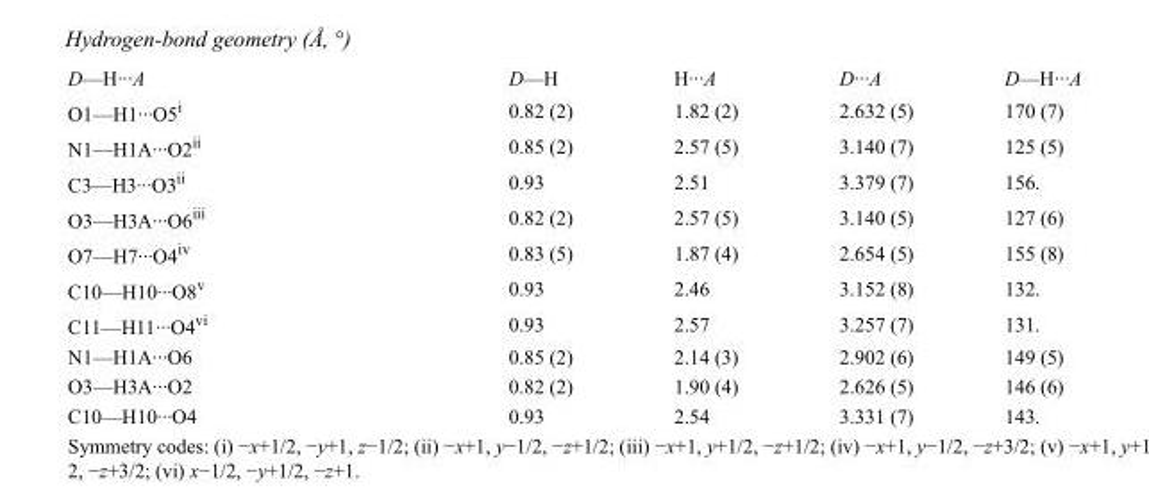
<table><tbody><tr><td>D—H···A</td><td>D—H</td><td>H···A</td><td>D···A</td><td>D—H···A</td></tr><tr><td>O1—H1···O5<sup>i</sup></td><td>0.82 (2)</td><td>1.82 (2)</td><td>2.632 (5)</td><td>170 (7)</td></tr><tr><td>N1—H1A···O2<sup>ii</sup></td><td>0.85 (2)</td><td>2.57 (5)</td><td>3.140 (7)</td><td>125 (5)</td></tr><tr><td>C3—H3···O3<sup>ii</sup></td><td>0.93</td><td>2.51</td><td>3.379 (7)</td><td>156.</td></tr><tr><td>O3—H3A···O6<sup>iii</sup></td><td>0.82 (2)</td><td>2.57 (5)</td><td>3.140 (5)</td><td>127 (6)</td></tr><tr><td>O7—H7···O4<sup>iv</sup></td><td>0.83 (5)</td><td>1.87 (4)</td><td>2.654 (5)</td><td>155 (8)</td></tr><tr><td>C10—H10···O8<sup>v</sup></td><td>0.93</td><td>2.46</td><td>3.152 (8)</td><td>132.</td></tr><tr><td>C11—H11···O4<sup>vi</sup></td><td>0.93</td><td>2.57</td><td>3.257 (7)</td><td>131.</td></tr><tr><td>N1—H1A···O6</td><td>0.85 (2)</td><td>2.14 (3)</td><td>2.902 (6)</td><td>149 (5)</td></tr><tr><td>O3—H3A···O2</td><td>0.82 (2)</td><td>1.90 (4)</td><td>2.626 (5)</td><td>146 (6)</td></tr><tr><td>C10—H10···O4</td><td>0.93</td><td>2.54</td><td>3.331 (7)</td><td>143.</td></tr></tbody></table>